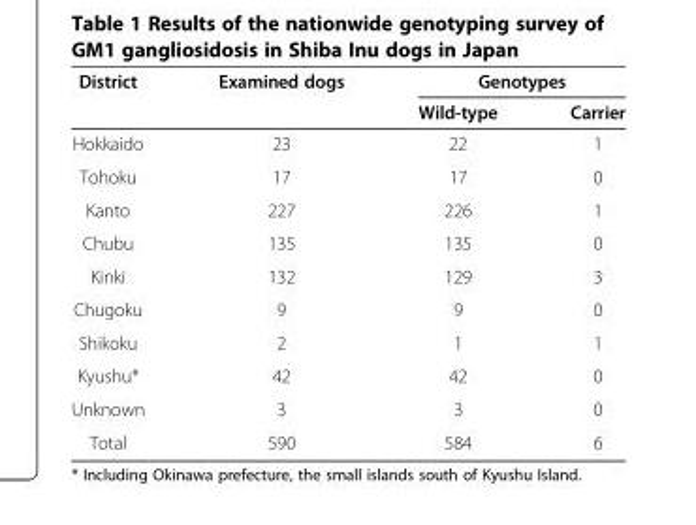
<table><thead><tr><td rowspan="2">District</td><td rowspan="2">Examined dogs</td><td colspan="2">Genotypes</td></tr><tr><td>Wild-type</td><td>Carrier</td></tr></thead><tbody><tr><td>Hokkaido</td><td>23</td><td>22</td><td>1</td></tr><tr><td>Tohoku</td><td>17</td><td>17</td><td>0</td></tr><tr><td>Kanto</td><td>227</td><td>226</td><td>1</td></tr><tr><td>Chubu</td><td>135</td><td>135</td><td>0</td></tr><tr><td>Kinki</td><td>132</td><td>129</td><td>3</td></tr><tr><td>Chugoku</td><td>9</td><td>9</td><td>0</td></tr><tr><td>Shikoku</td><td>2</td><td>1</td><td>1</td></tr><tr><td>Kyushu*</td><td>42</td><td>42</td><td>0</td></tr><tr><td>Unknown</td><td>3</td><td>3</td><td>0</td></tr><tr><td>Total</td><td>590</td><td>584</td><td>6</td></tr></tbody></table>